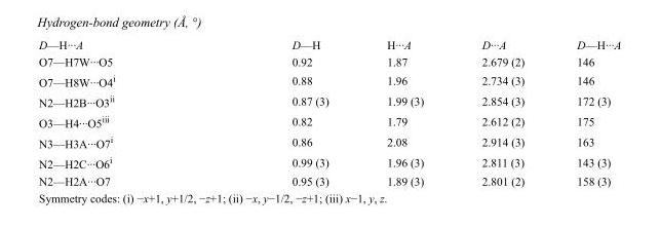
<table><tbody><tr><td>D—H···A</td><td>D—H</td><td>H···A</td><td>D···A</td><td>D—H···A</td></tr><tr><td>O7—H7W···O5</td><td>0.92</td><td>1.87</td><td>2.679 (2)</td><td>146</td></tr><tr><td>O7—H8W···O4<sup>i</sup></td><td>0.88</td><td>1.96</td><td>2.734 (3)</td><td>146</td></tr><tr><td>N2—H2B···O3<sup>ii</sup></td><td>0.87 (3)</td><td>1.99 (3)</td><td>2.854 (3)</td><td>172 (3)</td></tr><tr><td>O3—H4···O5<sup>iii</sup></td><td>0.82</td><td>1.79</td><td>2.612 (2)</td><td>175</td></tr><tr><td>N3—H3A···O7<sup>i</sup></td><td>0.86</td><td>2.08</td><td>2.914 (3)</td><td>163</td></tr><tr><td>N2—H2C···O6<sup>i</sup></td><td>0.99 (3)</td><td>1.96 (3)</td><td>2.811 (3)</td><td>143 (3)</td></tr><tr><td>N2—H2A···O7</td><td>0.95 (3)</td><td>1.89 (3)</td><td>2.801 (2)</td><td>158 (3)</td></tr></tbody></table>